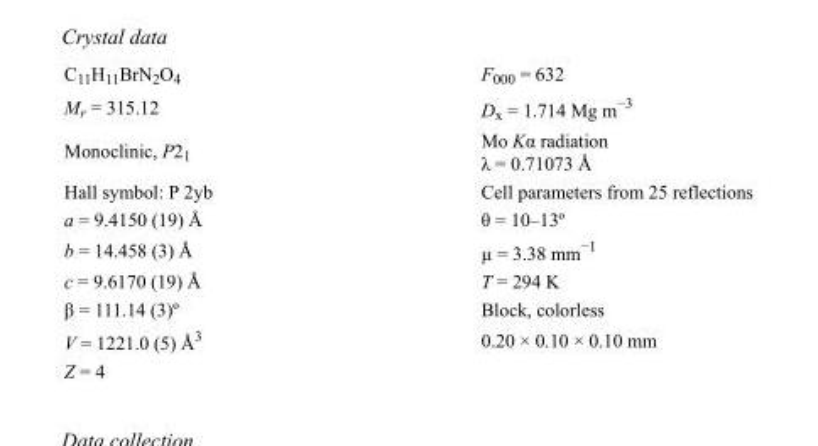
<table><tbody><tr><td>C<sub>11</sub>H<sub>11</sub>BrN<sub>2</sub>O<sub>4</sub></td><td>F000 = 632</td></tr><tr><td>M<sub>r</sub> = 315.12</td><td>D<sub>x</sub> = 1.714 Mg m<sup>−3</sup></td></tr><tr><td>Monoclinic, P2<sub>1</sub></td><td>Mo Kα radiation λ = 0.71073 Å</td></tr><tr><td>Hall symbol: P 2yb</td><td>Cell parameters from 25 reflections</td></tr><tr><td>a = 9.4150 (19) Å</td><td>θ = 10–13º</td></tr><tr><td>b = 14.458 (3) Å</td><td>µ = 3.38 mm<sup>−1</sup></td></tr><tr><td>c = 9.6170 (19) Å</td><td>T = 294 K</td></tr><tr><td>β = 111.14 (3)º</td><td>Block, colorless</td></tr><tr><td>V = 1221.0 (5) Å<sup>3</sup></td><td>0.20 × 0.10 × 0.10 mm</td></tr><tr><td>Z = 4</td><td></td></tr></tbody></table>